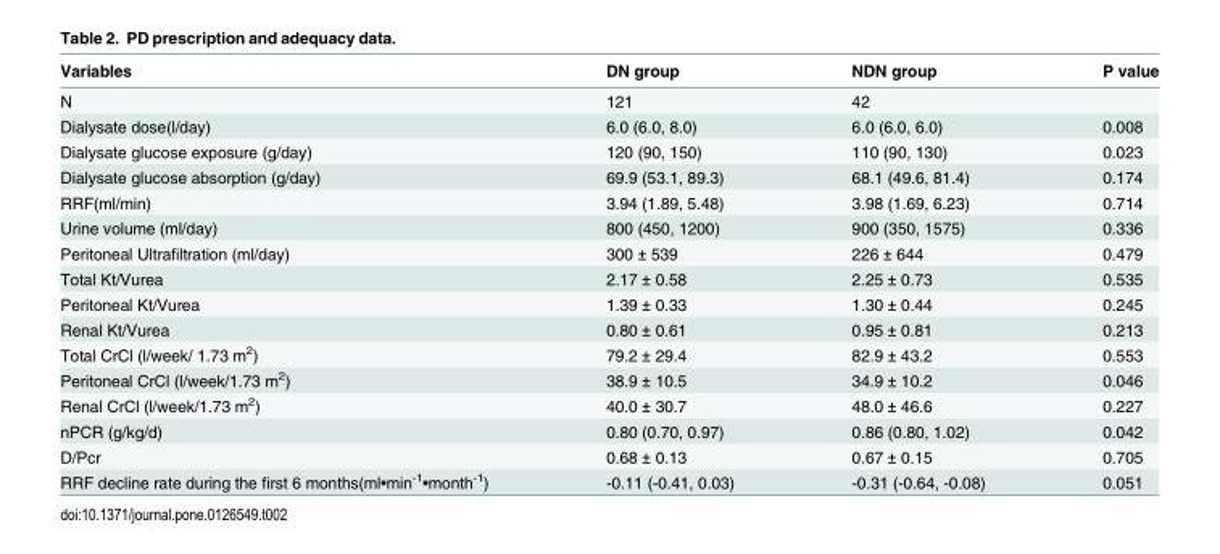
<table><thead><tr><td>Variables</td><td>DN group</td><td>NDN group</td><td>P value</td></tr></thead><tbody><tr><td>N</td><td>121</td><td>42</td><td></td></tr><tr><td>Dialysate dose(l/day)</td><td>6.0 (6.0, 8.0)</td><td>6.0 (6.0, 6.0)</td><td>0.008</td></tr><tr><td>Dialysate glucose exposure (g/day)</td><td>120 (90, 150)</td><td>110 (90, 130)</td><td>0.023</td></tr><tr><td>Dialysate glucose absorption (g/day)</td><td>69.9 (53.1, 89.3)</td><td>68.1 (49.6, 81.4)</td><td>0.174</td></tr><tr><td>RRF(ml/min)</td><td>3.94 (1.89, 5.48)</td><td>3.98 (1.69, 6.23)</td><td>0.714</td></tr><tr><td>Urine volume (ml/day)</td><td>800 (450, 1200)</td><td>900 (350, 1575)</td><td>0.336</td></tr><tr><td>Peritoneal Ultrafiltration (ml/day)</td><td>300 ± 539</td><td>226 ± 644</td><td>0.479</td></tr><tr><td>Total Kt/Vurea</td><td>2.17 ± 0.58</td><td>2.25 ± 0.73</td><td>0.535</td></tr><tr><td>Peritoneal Kt/Vurea</td><td>1.39 ± 0.33</td><td>1.30 ± 0.44</td><td>0.245</td></tr><tr><td>Renal Kt/Vurea</td><td>0.80 ± 0.61</td><td>0.95 ± 0.81</td><td>0.213</td></tr><tr><td>Total CrCl (l/week/ 1.73 m<sup>2</sup>)</td><td>79.2 ± 29.4</td><td>82.9 ± 43.2</td><td>0.553</td></tr><tr><td>Peritoneal CrCl (l/week/1.73 m<sup>2</sup>)</td><td>38.9 ± 10.5</td><td>34.9 ± 10.2</td><td>0.046</td></tr><tr><td>Renal CrCl (l/week/1.73 m<sup>2</sup>)</td><td>40.0 ± 30.7</td><td>48.0 ± 46.6</td><td>0.227</td></tr><tr><td>nPCR (g/kg/d)</td><td>0.80 (0.70, 0.97)</td><td>0.86 (0.80, 1.02)</td><td>0.042</td></tr><tr><td>D/Pcr</td><td>0.68 ± 0.13</td><td>0.67 ± 0.15</td><td>0.705</td></tr><tr><td>RRF decline rate during the first 6 months(ml•min<sup>-1</sup>•month<sup>-1</sup>)</td><td>-0.11 (-0.41, 0.03)</td><td>-0.31 (-0.64, -0.08)</td><td>0.051</td></tr></tbody></table>